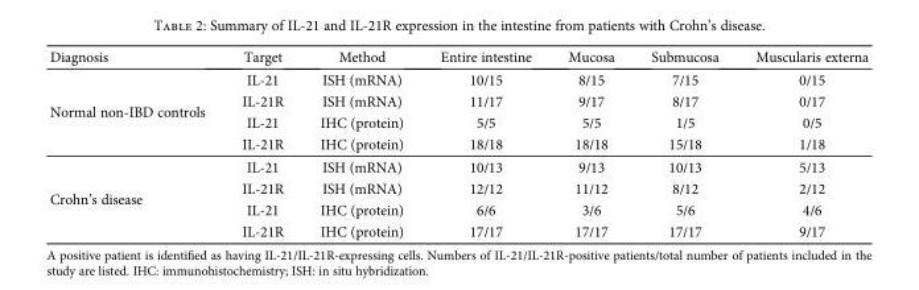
<table><thead><tr><td>Diagnosis</td><td>Target</td><td>Method</td><td>Entire intestine</td><td>Mucosa</td><td>Submucosa</td><td>Muscularis externa</td></tr></thead><tbody><tr><td rowspan="4">Normal non-IBD controls</td><td>IL-21</td><td>ISH (mRNA)</td><td>10/15</td><td>8/15</td><td>7/15</td><td>0/15</td></tr><tr><td>IL-21R</td><td>ISH (mRNA)</td><td>11/17</td><td>9/17</td><td>8/17</td><td>0/17</td></tr><tr><td>IL-21</td><td>IHC (protein)</td><td>5/5</td><td>5/5</td><td>1/5</td><td>0/5</td></tr><tr><td>IL-21R</td><td>IHC (protein)</td><td>18/18</td><td>18/18</td><td>15/18</td><td>1/18</td></tr><tr><td rowspan="4">Crohn’s disease</td><td>IL-21</td><td>ISH (mRNA)</td><td>10/13</td><td>9/13</td><td>10/13</td><td>5/13</td></tr><tr><td>IL-21R</td><td>ISH (mRNA)</td><td>12/12</td><td>11/12</td><td>8/12</td><td>2/12</td></tr><tr><td>IL-21</td><td>IHC (protein)</td><td>6/6</td><td>3/6</td><td>5/6</td><td>4/6</td></tr><tr><td>IL-21R</td><td>IHC (protein)</td><td>17/17</td><td>17/17</td><td>17/17</td><td>9/17</td></tr></tbody></table>